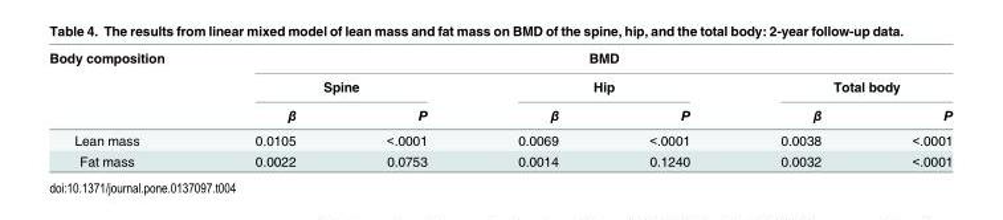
<table><thead><tr><td rowspan="3">Body composition</td><td colspan="6">BMD</td></tr><tr><td colspan="2">Spine</td><td colspan="2">Hip</td><td colspan="2">Total body</td></tr><tr><td>β</td><td>P</td><td>β</td><td>P</td><td>β</td><td>P</td></tr></thead><tbody><tr><td>Lean mass</td><td>0.0105</td><td>&lt;.0001</td><td>0.0069</td><td>&lt;.0001</td><td>0.0038</td><td>&lt;.0001</td></tr><tr><td>Fat mass</td><td>0.0022</td><td>0.0753</td><td>0.0014</td><td>0.1240</td><td>0.0032</td><td>&lt;.0001</td></tr></tbody></table>